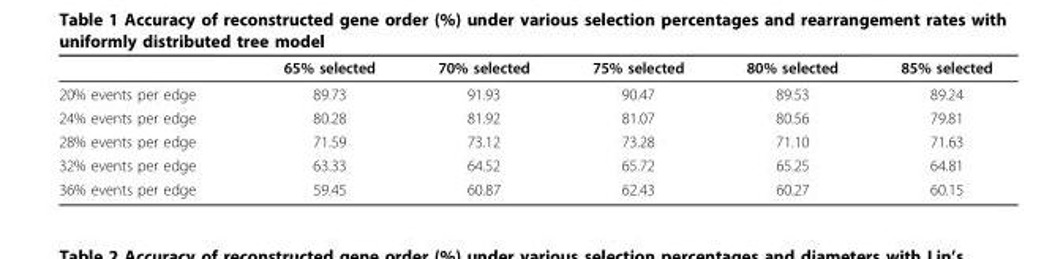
<table><thead><tr><td></td><td>65% selected</td><td>70% selected</td><td>75% selected</td><td>80% selected</td><td>85% selected</td></tr></thead><tbody><tr><td>20% events per edge</td><td>89.73</td><td>91.93</td><td>90.47</td><td>89.53</td><td>89.24</td></tr><tr><td>24% events per edge</td><td>80.28</td><td>81.92</td><td>81.07</td><td>80.56</td><td>79.81</td></tr><tr><td>28% events per edge</td><td>71.59</td><td>73.12</td><td>73.28</td><td>71.10</td><td>71.63</td></tr><tr><td>32% events per edge</td><td>63.33</td><td>64.52</td><td>65.72</td><td>65.25</td><td>64.81</td></tr><tr><td>36% events per edge</td><td>59.45</td><td>60.87</td><td>62.43</td><td>60.27</td><td>60.15</td></tr></tbody></table>